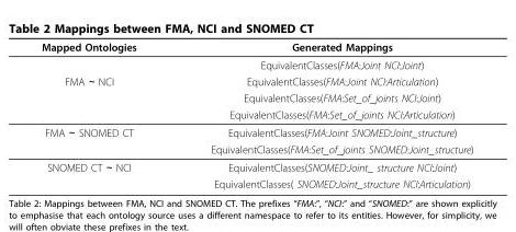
<table><thead><tr><td>Mapped Ontologies</td><td>Generated Mappings</td></tr></thead><tbody><tr><td></td><td>EquivalentClasses(FMA:Joint NCI:Joint)</td></tr><tr><td rowspan="3">FMA ∼ NCI</td><td>EquivalentClasses(FMA:Joint NCI:Articulation)</td></tr><tr><td>EquivalentClasses(FMA:Set_of_joints NCI:Joint)</td></tr><tr><td>EquivalentClasses(FMA:Set_of_joints NCI:Articulation)</td></tr><tr><td rowspan="2">FMA ∼ SNOMED CT</td><td>EquivalentClasses(FMA:Joint SNOMED:Joint_structure)</td></tr><tr><td>EquivalentClasses(FMA:Set_of_joints SNOMED:Joint_structure)</td></tr><tr><td rowspan="2">SNOMED CT ∼ NCI</td><td>EquivalentClasses(SNOMED:Joint_ structure NCI:Joint)</td></tr><tr><td>EquivalentClasses( SNOMED:Joint_structure NCI:Articulation)</td></tr></tbody></table>